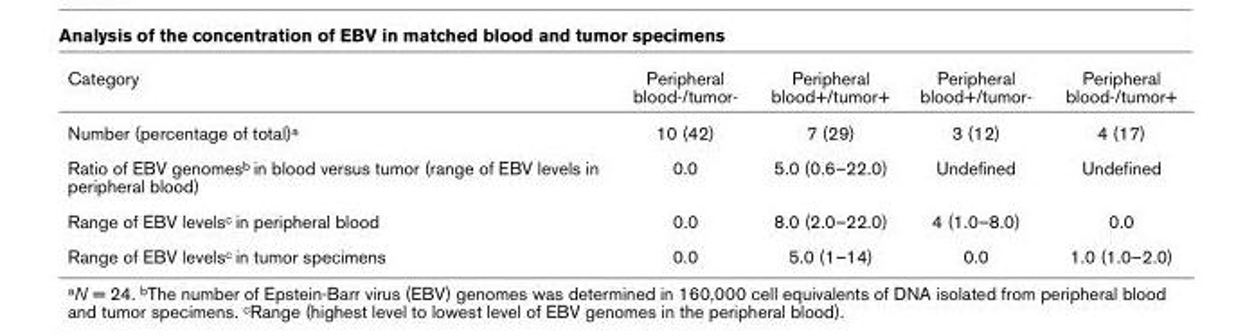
<table><thead><tr><td>Category</td><td>Peripheral blood-/tumor-</td><td>Peripheral blood+/tumor+</td><td>Peripheral blood+/tumor-</td><td>Peripheral blood-/tumor+</td></tr></thead><tbody><tr><td>Number (percentage of total)a</td><td>10 (42)</td><td>7 (29)</td><td>3 (12)</td><td>4 (17)</td></tr><tr><td>Ratio of EBV genomesb in blood versus tumor (range of EBV levels in peripheral blood)</td><td>0.0</td><td>5.0 (0.6–22.0)</td><td>Undefined</td><td>Undefined</td></tr><tr><td>Range of EBV levelsc in peripheral blood</td><td>0.0</td><td>8.0 (2.0–22.0)</td><td>4 (1.0–8.0)</td><td>0.0</td></tr><tr><td>Range of EBV levelsc in tumor specimens</td><td>0.0</td><td>5.0 (1–14)</td><td>0.0</td><td>1.0 (1.0–2.0)</td></tr></tbody></table>